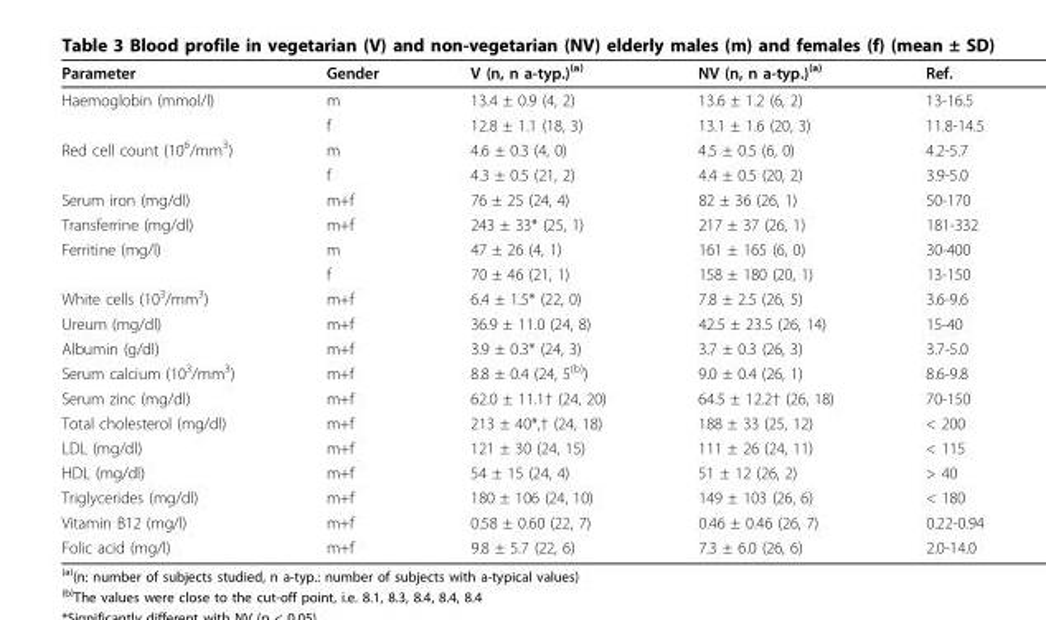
<table><thead><tr><td>Parameter</td><td>Gender</td><td>V (n, n a-typ.)<sup>(a)</sup></td><td>NV (n, n a-typ.)<sup>(a)</sup></td><td>Ref.</td></tr></thead><tbody><tr><td rowspan="2">Haemoglobin (mmol/l)</td><td>m</td><td>13.4 ± 0.9 (4, 2)</td><td>13.6 ± 1.2 (6, 2)</td><td>13-16.5</td></tr><tr><td>f</td><td>12.8 ± 1.1 (18, 3)</td><td>13.1 ± 1.6 (20, 3)</td><td>11.8-14.5</td></tr><tr><td rowspan="2">Red cell count (10<sup>6</sup>/mm<sup>3</sup>)</td><td>m</td><td>4.6 ± 0.3 (4, 0)</td><td>4.5 ± 0.5 (6, 0)</td><td>4.2-5.7</td></tr><tr><td>f</td><td>4.3 ± 0.5 (21, 2)</td><td>4.4 ± 0.5 (20, 2)</td><td>3.9-5.0</td></tr><tr><td>Serum iron (mg/dl)</td><td>m+f</td><td>76 ± 25 (24, 4)</td><td>82 ± 36 (26, 1)</td><td>50-170</td></tr><tr><td>Transferrine (mg/dl)</td><td>m+f</td><td>243 ± 33* (25, 1)</td><td>217 ± 37 (26, 1)</td><td>181-332</td></tr><tr><td rowspan="2">Ferritine (mg/l)</td><td>m</td><td>47 ± 26 (4, 1)</td><td>161 ± 165 (6, 0)</td><td>30-400</td></tr><tr><td>f</td><td>70 ± 46 (21, 1)</td><td>158 ± 180 (20, 1)</td><td>13-150</td></tr><tr><td>White cells (10<sup>3</sup>/mm<sup>3</sup>)</td><td>m+f</td><td>6.4 ± 1.5* (22, 0)</td><td>7.8 ± 2.5 (26, 5)</td><td>3.6-9.6</td></tr><tr><td>Ureum (mg/dl)</td><td>m+f</td><td>36.9 ± 11.0 (24, 8)</td><td>42.5 ± 23.5 (26, 14)</td><td>15-40</td></tr><tr><td>Albumin (g/dl)</td><td>m+f</td><td>3.9 ± 0.3* (24, 3)</td><td>3.7 ± 0.3 (26, 3)</td><td>3.7-5.0</td></tr><tr><td>Serum calcium (10<sup>3</sup>/mm<sup>3</sup>)</td><td>m+f</td><td>8.8 ± 0.4 (24, 5<sup>(b)</sup>)</td><td>9.0 ± 0.4 (26, 1)</td><td>8.6-9.8</td></tr><tr><td>Serum zinc (mg/dl)</td><td>m+f</td><td>62.0 ± 11.1† (24, 20)</td><td>64.5 ± 12.2† (26, 18)</td><td>70-150</td></tr><tr><td>Total cholesterol (mg/dl)</td><td>m+f</td><td>213 ± 40*,† (24, 18)</td><td>188 ± 33 (25, 12)</td><td>&lt; 200</td></tr><tr><td>LDL (mg/dl)</td><td>m+f</td><td>121 ± 30 (24, 15)</td><td>111 ± 26 (24, 11)</td><td>&lt; 115</td></tr><tr><td>HDL (mg/dl)</td><td>m+f</td><td>54 ± 15 (24, 4)</td><td>51 ± 12 (26, 2)</td><td>&gt; 40</td></tr><tr><td>Triglycerides (mg/dl)</td><td>m+f</td><td>180 ± 106 (24, 10)</td><td>149 ± 103 (26, 6)</td><td>&lt; 180</td></tr><tr><td>Vitamin B12 (mg/l)</td><td>m+f</td><td>0.58 ± 0.60 (22, 7)</td><td>0.46 ± 0.46 (26, 7)</td><td>0.22-0.94</td></tr><tr><td>Folic acid (mg/l)</td><td>m+f</td><td>9.8 ± 5.7 (22, 6)</td><td>7.3 ± 6.0 (26, 6)</td><td>2.0-14.0</td></tr></tbody></table>